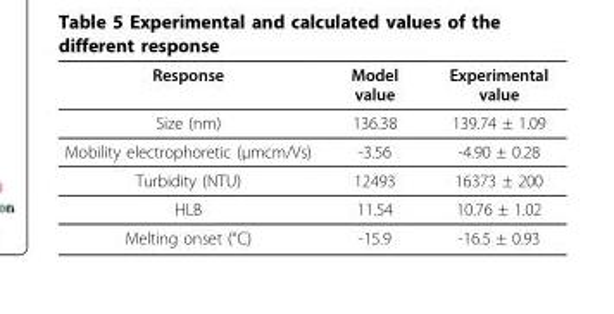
<table><thead><tr><td>Response</td><td>Model value</td><td>Experimental value</td></tr></thead><tbody><tr><td>Size (nm)</td><td>136.38</td><td>139.74 ± 1.09</td></tr><tr><td>Mobility electrophoretic (μmcm/Vs)</td><td>-3.56</td><td>-4.90 ± 0.28</td></tr><tr><td>Turbidity (NTU)</td><td>12493</td><td>16373 ± 200</td></tr><tr><td>HLB</td><td>11.54</td><td>10.76 ± 1.02</td></tr><tr><td>Melting onset (°C)</td><td>-15.9</td><td>-16.5 ± 0.93</td></tr></tbody></table>